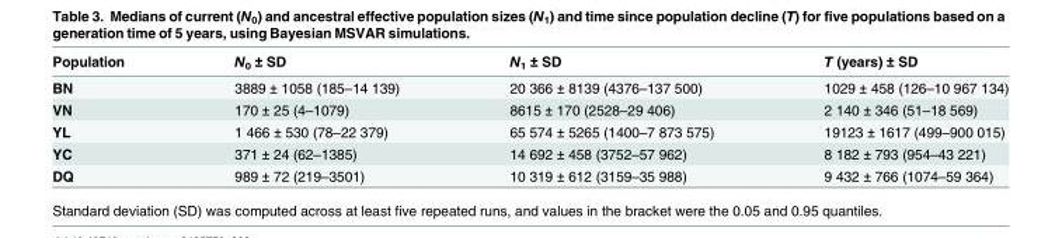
<table><thead><tr><td>Population</td><td>N<sub>0</sub> ± SD</td><td>N<sub>1</sub> ± SD</td><td>T (years) ± SD</td></tr></thead><tbody><tr><td>BN</td><td>3889 ± 1058 (185–14 139)</td><td>20 366 ± 8139 (4376–137 500)</td><td>1029 ± 458 (126–10 967 134)</td></tr><tr><td>VN</td><td>170 ± 25 (4–1079)</td><td>8615 ± 170 (2528–29 406)</td><td>2 140 ± 346 (51–18 569)</td></tr><tr><td>YL</td><td>1 466 ± 530 (78–22 379)</td><td>65 574 ± 5265 (1400–7 873 575)</td><td>19123 ± 1617 (499–900 015)</td></tr><tr><td>YC</td><td>371 ± 24 (62–1385)</td><td>14 692 ± 458 (3752–57 962)</td><td>8 182 ± 793 (954–43 221)</td></tr><tr><td>DQ</td><td>989 ± 72 (219–3501)</td><td>10 319 ± 612 (3159–35 988)</td><td>9 432 ± 766 (1074–59 364)</td></tr></tbody></table>